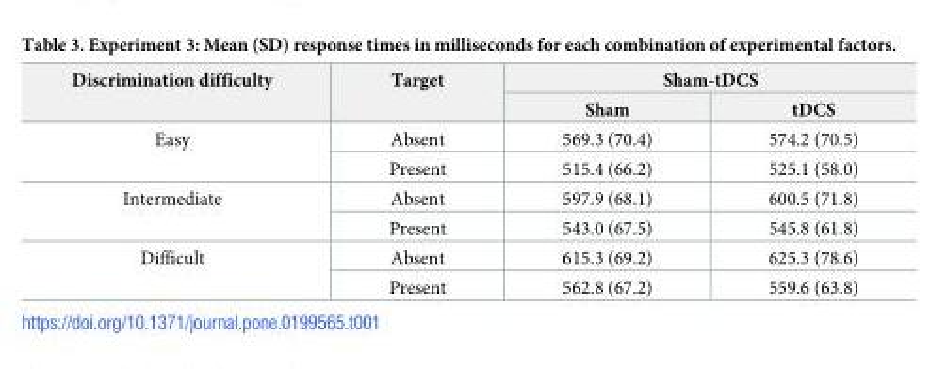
<table><thead><tr><td rowspan="2">Discrimination difficulty</td><td rowspan="2">Target</td><td colspan="2">Sham-tDCS</td></tr><tr><td>Sham</td><td>tDCS</td></tr></thead><tbody><tr><td rowspan="2">Easy</td><td>Absent</td><td>569.3 (70.4)</td><td>574.2 (70.5)</td></tr><tr><td>Present</td><td>515.4 (66.2)</td><td>525.1 (58.0)</td></tr><tr><td rowspan="2">Intermediate</td><td>Absent</td><td>597.9 (68.1)</td><td>600.5 (71.8)</td></tr><tr><td>Present</td><td>543.0 (67.5)</td><td>545.8 (61.8)</td></tr><tr><td rowspan="2">Difficult</td><td>Absent</td><td>615.3 (69.2)</td><td>625.3 (78.6)</td></tr><tr><td>Present</td><td>562.8 (67.2)</td><td>559.6 (63.8)</td></tr></tbody></table>